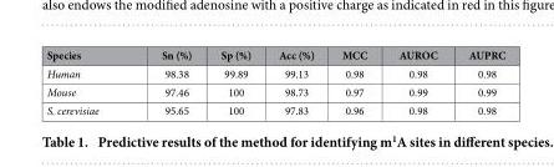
<table><thead><tr><td>Species</td><td>Sn (%)</td><td>Sp (%)</td><td>Acc (%)</td><td>MCC</td><td>AUROC</td><td>AUPRC</td></tr></thead><tbody><tr><td>Human</td><td>98.38</td><td>99.89</td><td>99.13</td><td>0.98</td><td>0.98</td><td>0.98</td></tr><tr><td>Mouse</td><td>97.46</td><td>100</td><td>98.73</td><td>0.97</td><td>0.99</td><td>0.99</td></tr><tr><td>S. cerevisiae</td><td>95.65</td><td>100</td><td>97.83</td><td>0.96</td><td>0.98</td><td>0.98</td></tr></tbody></table>